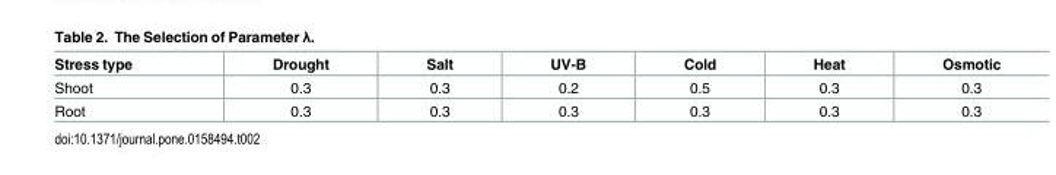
<table><thead><tr><td>Stress type</td><td>Drought</td><td>Salt</td><td>UV-B</td><td>Cold</td><td>Heat</td><td>Osmotic</td></tr></thead><tbody><tr><td>Shoot</td><td>0.3</td><td>0.3</td><td>0.2</td><td>0.5</td><td>0.3</td><td>0.3</td></tr><tr><td>Root</td><td>0.3</td><td>0.3</td><td>0.3</td><td>0.3</td><td>0.3</td><td>0.3</td></tr></tbody></table>